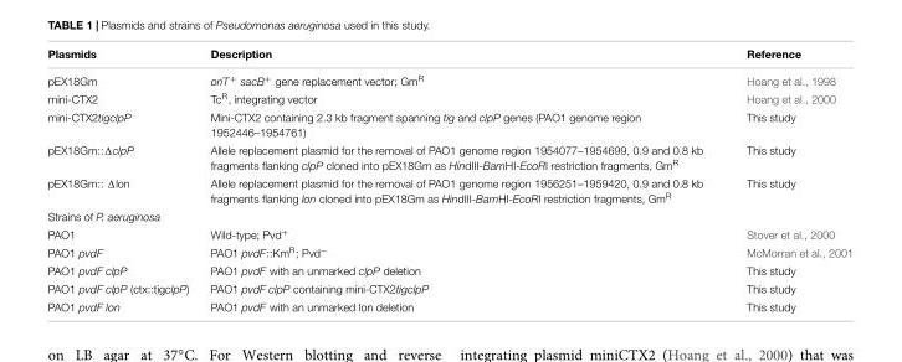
<table><thead><tr><td>Plasmids</td><td>Description</td><td>Reference</td></tr></thead><tbody><tr><td>pEX18Gm</td><td>oriT<sup>+</sup> sacB<sup>+</sup> gene replacement vector; Gm<sup>R</sup></td><td>Hoang et al., 1998</td></tr><tr><td>mini-CTX2</td><td>Tc<sup>R</sup>, integrating vector</td><td>Hoang et al., 2000</td></tr><tr><td>mini-CTX2tigclpP</td><td>Mini-CTX2 containing 2.3 kb fragment spanning tig and clpP genes (PAO1 genome region 1952446–1954761)</td><td>This study</td></tr><tr><td>pEX18Gm::ΔclpP</td><td>Allele replacement plasmid for the removal of PAO1 genome region 1954077–1954699, 0.9 and 0.8 kb fragments flanking clpP cloned into pEX18Gm as HindIII-BamHI-EcoRI restriction fragments, Gm<sup>R</sup></td><td>This study</td></tr><tr><td>pEX18Gm:: Δlon</td><td>Allele replacement plasmid for the removal of PAO1 genome region 1956251–1959420, 0.9 and 0.8 kb fragments flanking lon cloned into pEX18Gm as HindIII-BamHI-EcoRI restriction fragments, Gm<sup>R</sup></td><td>This study</td></tr><tr><td colspan="3">Strains of P. aeruginosa</td></tr><tr><td>PAO1</td><td>Wild-type; Pvd<sup>+</sup></td><td>Stover et al., 2000</td></tr><tr><td>PAO1 pvdF</td><td>PAO1 pvdF::Km<sup>R</sup>; Pvd<sup>−</sup></td><td>McMorran et al., 2001</td></tr><tr><td>PAO1 pvdF clpP</td><td>PAO1 pvdF with an unmarked clpP deletion</td><td>This study</td></tr><tr><td>PAO1 pvdF clpP (ctx::tigclpP)</td><td>PAO1 pvdF clpP containing mini-CTX2tigclpP</td><td>This study</td></tr><tr><td>PAO1 pvdF lon</td><td>PAO1 pvdF with an unmarked lon deletion</td><td>This study</td></tr></tbody></table>